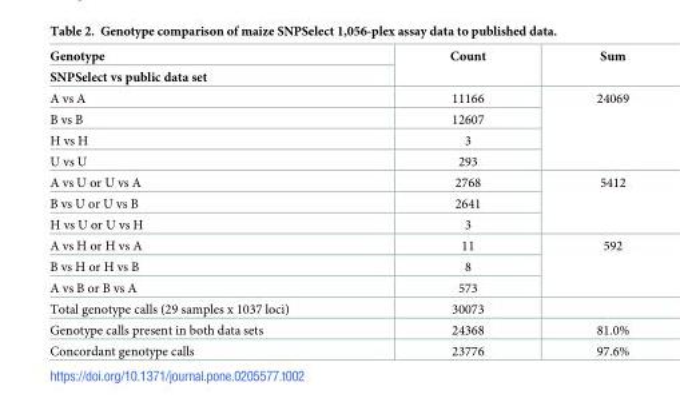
<table><thead><tr><td rowspan="2">Genotype SNPSelect vs public data set</td><td rowspan="2">Count</td><td rowspan="2">Sum</td></tr><tr></tr></thead><tbody><tr><td>A vs A</td><td>11166</td><td rowspan="4">24069</td></tr><tr><td>B vs B</td><td>12607</td></tr><tr><td>H vs H</td><td>3</td></tr><tr><td>U vs U</td><td>293</td></tr><tr><td>A vs U or U vs A</td><td>2768</td><td rowspan="3">5412</td></tr><tr><td>B vs U or U vs B</td><td>2641</td></tr><tr><td>H vs U or U vs H</td><td>3</td></tr><tr><td>A vs H or H vs A</td><td>11</td><td rowspan="3">592</td></tr><tr><td>B vs H or H vs B</td><td>8</td></tr><tr><td>A vs B or B vs A</td><td>573</td></tr><tr><td>Total genotype calls (29 samples x 1037 loci)</td><td>30073</td><td></td></tr><tr><td>Genotype calls present in both data sets</td><td>24368</td><td>81.0%</td></tr><tr><td>Concordant genotype calls</td><td>23776</td><td>97.6%</td></tr></tbody></table>